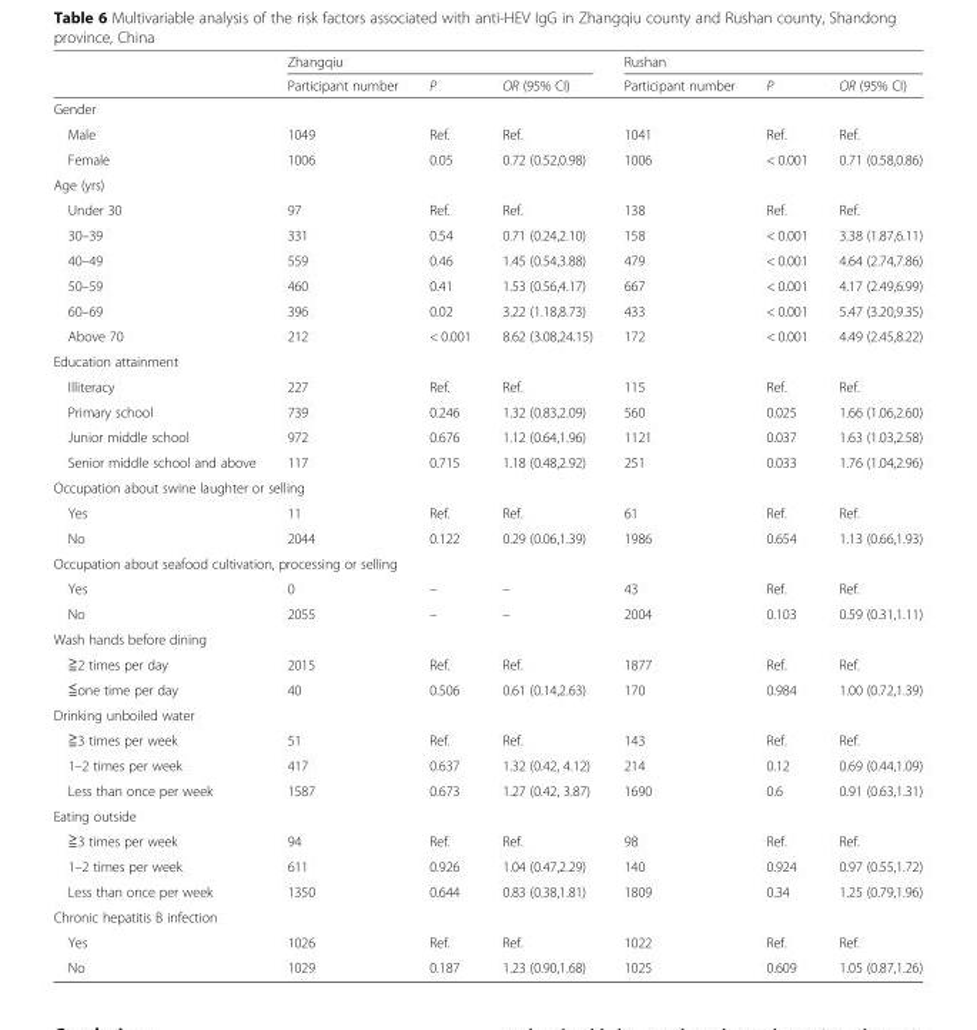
<table><thead><tr><td rowspan="2"></td><td colspan="3">Zhangqiu</td><td colspan="3">Rushan</td></tr><tr><td>Participant number</td><td>P</td><td>OR (95% CI)</td><td>Participant number</td><td>P</td><td>OR (95% CI)</td></tr></thead><tbody><tr><td colspan="7">Gender</td></tr><tr><td>Male</td><td>1049</td><td>Ref.</td><td>Ref.</td><td>1041</td><td>Ref.</td><td>Ref.</td></tr><tr><td>Female</td><td>1006</td><td>0.05</td><td>0.72 (0.52,0.98)</td><td>1006</td><td>&lt; 0.001</td><td>0.71 (0.58,0.86)</td></tr><tr><td colspan="7">Age (yrs)</td></tr><tr><td>Under 30</td><td>97</td><td>Ref.</td><td>Ref.</td><td>138</td><td>Ref.</td><td>Ref.</td></tr><tr><td>30–39</td><td>331</td><td>0.54</td><td>0.71 (0.24,2.10)</td><td>158</td><td>&lt; 0.001</td><td>3.38 (1.87,6.11)</td></tr><tr><td>40–49</td><td>559</td><td>0.46</td><td>1.45 (0.54,3.88)</td><td>479</td><td>&lt; 0.001</td><td>4.64 (2.74,7.86)</td></tr><tr><td>50–59</td><td>460</td><td>0.41</td><td>1.53 (0.56,4.17)</td><td>667</td><td>&lt; 0.001</td><td>4.17 (2.49,6.99)</td></tr><tr><td>60–69</td><td>396</td><td>0.02</td><td>3.22 (1.18,8.73)</td><td>433</td><td>&lt; 0.001</td><td>5.47 (3.20,9.35)</td></tr><tr><td>Above 70</td><td>212</td><td>&lt; 0.001</td><td>8.62 (3.08,24.15)</td><td>172</td><td>&lt; 0.001</td><td>4.49 (2.45,8.22)</td></tr><tr><td colspan="7">Education attainment</td></tr><tr><td>Illiteracy</td><td>227</td><td>Ref.</td><td>Ref.</td><td>115</td><td>Ref.</td><td>Ref.</td></tr><tr><td>Primary school</td><td>739</td><td>0.246</td><td>1.32 (0.83,2.09)</td><td>560</td><td>0.025</td><td>1.66 (1.06,2.60)</td></tr><tr><td>Junior middle school</td><td>972</td><td>0.676</td><td>1.12 (0.64,1.96)</td><td>1121</td><td>0.037</td><td>1.63 (1.03,2.58)</td></tr><tr><td>Senior middle school and above</td><td>117</td><td>0.715</td><td>1.18 (0.48,2.92)</td><td>251</td><td>0.033</td><td>1.76 (1.04,2.96)</td></tr><tr><td colspan="7">Occupation about swine laughter or selling</td></tr><tr><td>Yes</td><td>11</td><td>Ref.</td><td>Ref.</td><td>61</td><td>Ref.</td><td>Ref.</td></tr><tr><td>No</td><td>2044</td><td>0.122</td><td>0.29 (0.06,1.39)</td><td>1986</td><td>0.654</td><td>1.13 (0.66,1.93)</td></tr><tr><td colspan="7">Occupation about seafood cultivation, processing or selling</td></tr><tr><td>Yes</td><td>0</td><td>–</td><td>–</td><td>43</td><td>Ref.</td><td>Ref.</td></tr><tr><td>No</td><td>2055</td><td>–</td><td>–</td><td>2004</td><td>0.103</td><td>0.59 (0.31,1.11)</td></tr><tr><td colspan="7">Wash hands before dining</td></tr><tr><td>≧2 times per day</td><td>2015</td><td>Ref.</td><td>Ref.</td><td>1877</td><td>Ref.</td><td>Ref.</td></tr><tr><td>≦one time per day</td><td>40</td><td>0.506</td><td>0.61 (0.14,2.63)</td><td>170</td><td>0.984</td><td>1.00 (0.72,1.39)</td></tr><tr><td colspan="7">Drinking unboiled water</td></tr><tr><td>≧3 times per week</td><td>51</td><td>Ref.</td><td>Ref.</td><td>143</td><td>Ref.</td><td>Ref.</td></tr><tr><td>1–2 times per week</td><td>417</td><td>0.637</td><td>1.32 (0.42, 4.12)</td><td>214</td><td>0.12</td><td>0.69 (0.44,1.09)</td></tr><tr><td>Less than once per week</td><td>1587</td><td>0.673</td><td>1.27 (0.42, 3.87)</td><td>1690</td><td>0.6</td><td>0.91 (0.63,1.31)</td></tr><tr><td colspan="7">Eating outside</td></tr><tr><td>≧3 times per week</td><td>94</td><td>Ref.</td><td>Ref.</td><td>98</td><td>Ref.</td><td>Ref.</td></tr><tr><td>1–2 times per week</td><td>611</td><td>0.926</td><td>1.04 (0.47,2.29)</td><td>140</td><td>0.924</td><td>0.97 (0.55,1.72)</td></tr><tr><td>Less than once per week</td><td>1350</td><td>0.644</td><td>0.83 (0.38,1.81)</td><td>1809</td><td>0.34</td><td>1.25 (0.79,1.96)</td></tr><tr><td colspan="7">Chronic hepatitis B infection</td></tr><tr><td>Yes</td><td>1026</td><td>Ref.</td><td>Ref.</td><td>1022</td><td>Ref.</td><td>Ref.</td></tr><tr><td>No</td><td>1029</td><td>0.187</td><td>1.23 (0.90,1.68)</td><td>1025</td><td>0.609</td><td>1.05 (0.87,1.26)</td></tr></tbody></table>